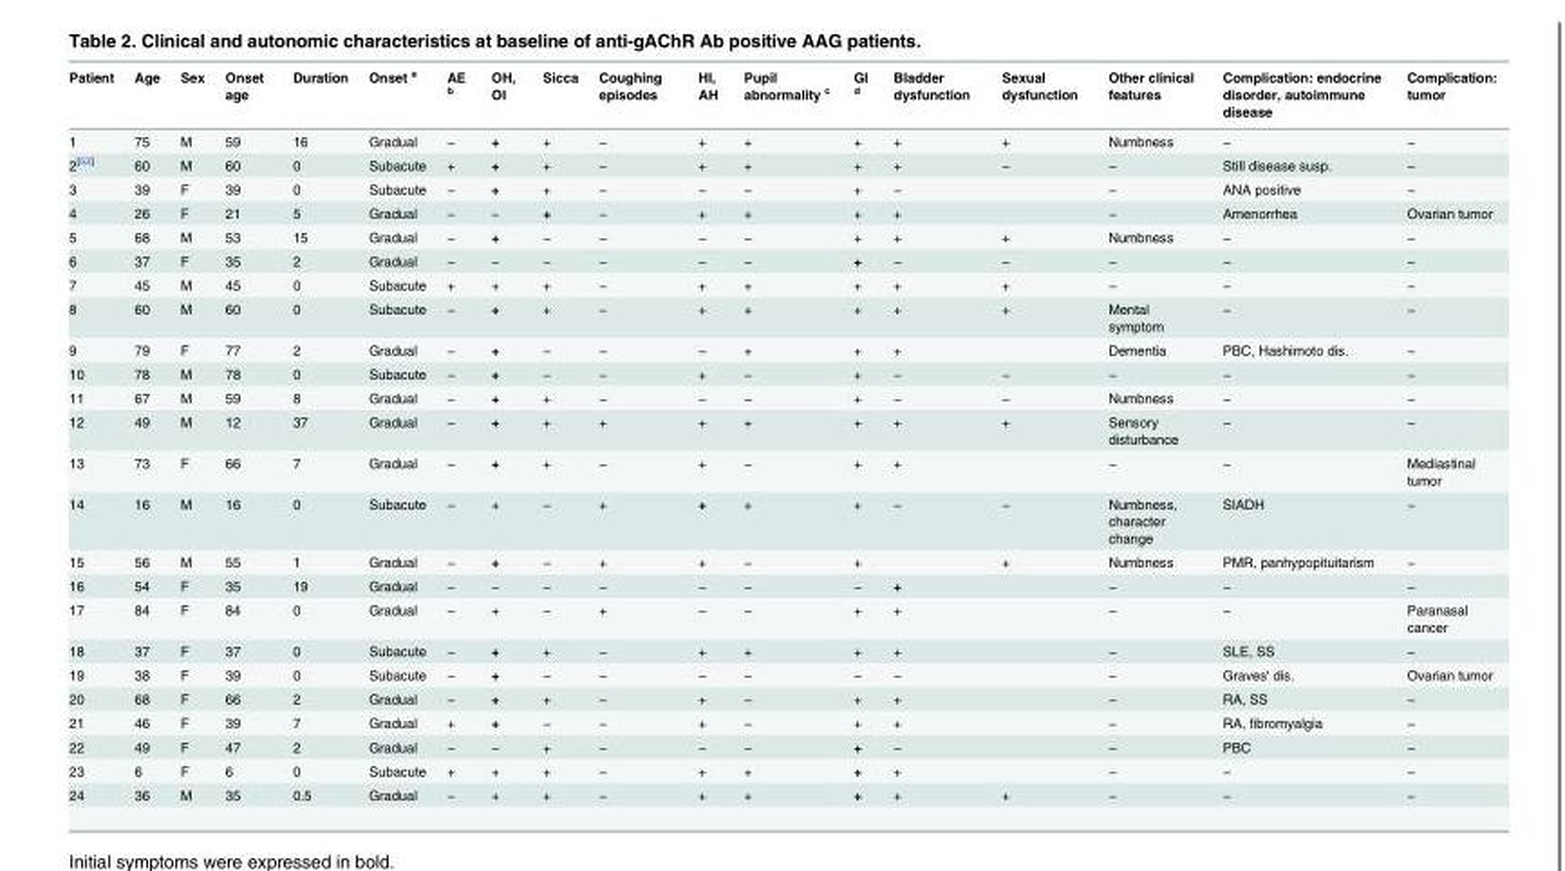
<table><thead><tr><td>Patient</td><td>Age</td><td>Sex</td><td>Onset age</td><td>Duration</td><td>Onset <sup>a</sup></td><td>AE <sup>b</sup></td><td>OH, OI</td><td>Sicca</td><td>Coughing episodes</td><td>HI, AH</td><td>Pupil abnormality <sup>c</sup></td><td>GI <sup>d</sup></td><td>Bladder dysfunction</td><td>Sexual dysfunction</td><td>Other clinical features</td><td>Complication: endocrine disorder, autoimmune disease</td><td>Complication: tumor</td></tr></thead><tbody><tr><td>1</td><td>75</td><td>M</td><td>59</td><td>16</td><td>Gradual</td><td>−</td><td>+</td><td>+</td><td>−</td><td>+</td><td>+</td><td>+</td><td>+</td><td>+</td><td>Numbness</td><td>−</td><td>−</td></tr><tr><td>2<sup>[53]</sup></td><td>60</td><td>M</td><td>60</td><td>0</td><td>Subacute</td><td>+</td><td>+</td><td>+</td><td>−</td><td>+</td><td>+</td><td>+</td><td>+</td><td>−</td><td>−</td><td>Still disease susp.</td><td>−</td></tr><tr><td>3</td><td>39</td><td>F</td><td>39</td><td>0</td><td>Subacute</td><td>−</td><td>+</td><td>+</td><td>−</td><td>−</td><td>−</td><td>+</td><td>−</td><td></td><td>−</td><td>ANA positive</td><td>−</td></tr><tr><td>4</td><td>26</td><td>F</td><td>21</td><td>5</td><td>Gradual</td><td>−</td><td>−</td><td>+</td><td>−</td><td>+</td><td>+</td><td>+</td><td>+</td><td></td><td>−</td><td>Amenorrhea</td><td>Ovarian tumor</td></tr><tr><td>5</td><td>68</td><td>M</td><td>53</td><td>15</td><td>Gradual</td><td>−</td><td>+</td><td>−</td><td>−</td><td>−</td><td>−</td><td>+</td><td>+</td><td>+</td><td>Numbness</td><td>−</td><td>−</td></tr><tr><td>6</td><td>37</td><td>F</td><td>35</td><td>2</td><td>Gradual</td><td>−</td><td>−</td><td>−</td><td>−</td><td>−</td><td>−</td><td>+</td><td>−</td><td>−</td><td>−</td><td>−</td><td>−</td></tr><tr><td>7</td><td>45</td><td>M</td><td>45</td><td>0</td><td>Subacute</td><td>+</td><td>+</td><td>+</td><td>−</td><td>+</td><td>+</td><td>+</td><td>+</td><td>+</td><td>−</td><td>−</td><td>−</td></tr><tr><td>8</td><td>60</td><td>M</td><td>60</td><td>0</td><td>Subacute</td><td>−</td><td>+</td><td>+</td><td>−</td><td>+</td><td>+</td><td>+</td><td>+</td><td>+</td><td>Mental symptom</td><td>−</td><td>−</td></tr><tr><td>9</td><td>79</td><td>F</td><td>77</td><td>2</td><td>Gradual</td><td>−</td><td>+</td><td>−</td><td>−</td><td>−</td><td>+</td><td>+</td><td>+</td><td></td><td>Dementia</td><td>PBC, Hashimoto dis.</td><td>−</td></tr><tr><td>10</td><td>78</td><td>M</td><td>78</td><td>0</td><td>Subacute</td><td>−</td><td>+</td><td>−</td><td>−</td><td>+</td><td>−</td><td>+</td><td>−</td><td>−</td><td>−</td><td>−</td><td>−</td></tr><tr><td>11</td><td>67</td><td>M</td><td>59</td><td>8</td><td>Gradual</td><td>−</td><td>+</td><td>+</td><td>−</td><td>−</td><td>−</td><td>+</td><td>−</td><td>−</td><td>Numbness</td><td>−</td><td>−</td></tr><tr><td>12</td><td>49</td><td>M</td><td>12</td><td>37</td><td>Gradual</td><td>−</td><td>+</td><td>+</td><td>+</td><td>+</td><td>+</td><td>+</td><td>+</td><td>+</td><td>Sensory disturbance</td><td>−</td><td>−</td></tr><tr><td>13</td><td>73</td><td>F</td><td>66</td><td>7</td><td>Gradual</td><td>−</td><td>+</td><td>+</td><td>−</td><td>+</td><td>−</td><td>+</td><td>+</td><td></td><td>−</td><td>−</td><td>Mediastinal tumor</td></tr><tr><td>14</td><td>16</td><td>M</td><td>16</td><td>0</td><td>Subacute</td><td>−</td><td>+</td><td>−</td><td>+</td><td>+</td><td>+</td><td>+</td><td>−</td><td>−</td><td>Numbness, character change</td><td>SIADH</td><td>−</td></tr><tr><td>15</td><td>56</td><td>M</td><td>55</td><td>1</td><td>Gradual</td><td>−</td><td>+</td><td>−</td><td>+</td><td>+</td><td>−</td><td>+</td><td></td><td>+</td><td>Numbness</td><td>PMR, panhypopituitarism</td><td>−</td></tr><tr><td>16</td><td>54</td><td>F</td><td>35</td><td>19</td><td>Gradual</td><td>−</td><td>−</td><td>−</td><td>−</td><td>−</td><td>−</td><td>−</td><td>+</td><td></td><td>−</td><td>−</td><td>−</td></tr><tr><td>17</td><td>84</td><td>F</td><td>84</td><td>0</td><td>Gradual</td><td>−</td><td>+</td><td>−</td><td>+</td><td>−</td><td>−</td><td>+</td><td>+</td><td></td><td>−</td><td>−</td><td>Paranasal cancer</td></tr><tr><td>18</td><td>37</td><td>F</td><td>37</td><td>0</td><td>Subacute</td><td>−</td><td>+</td><td>+</td><td>−</td><td>+</td><td>+</td><td>+</td><td>+</td><td></td><td>−</td><td>SLE, SS</td><td>−</td></tr><tr><td>19</td><td>38</td><td>F</td><td>39</td><td>0</td><td>Subacute</td><td>−</td><td>+</td><td>−</td><td>−</td><td>−</td><td>−</td><td>−</td><td>−</td><td></td><td>−</td><td>Graves&#x27; dis.</td><td>Ovarian tumor</td></tr><tr><td>20</td><td>68</td><td>F</td><td>66</td><td>2</td><td>Gradual</td><td>−</td><td>+</td><td>+</td><td>−</td><td>+</td><td>−</td><td>+</td><td>+</td><td></td><td>−</td><td>RA, SS</td><td>−</td></tr><tr><td>21</td><td>46</td><td>F</td><td>39</td><td>7</td><td>Gradual</td><td>+</td><td>+</td><td>−</td><td>−</td><td>+</td><td>−</td><td>+</td><td>+</td><td></td><td>−</td><td>RA, fibromyalgia</td><td>−</td></tr><tr><td>22</td><td>49</td><td>F</td><td>47</td><td>2</td><td>Gradual</td><td>−</td><td>−</td><td>+</td><td>−</td><td>−</td><td>−</td><td>+</td><td>−</td><td></td><td>−</td><td>PBC</td><td>−</td></tr><tr><td>23</td><td>6</td><td>F</td><td>6</td><td>0</td><td>Subacute</td><td>+</td><td>+</td><td>+</td><td>−</td><td>+</td><td>+</td><td>+</td><td>+</td><td></td><td>−</td><td>−</td><td>−</td></tr><tr><td>24</td><td>36</td><td>M</td><td>35</td><td>0.5</td><td>Gradual</td><td>−</td><td>+</td><td>+</td><td>−</td><td>+</td><td>+</td><td>+</td><td>+</td><td>+</td><td>−</td><td>−</td><td>−</td></tr></tbody></table>